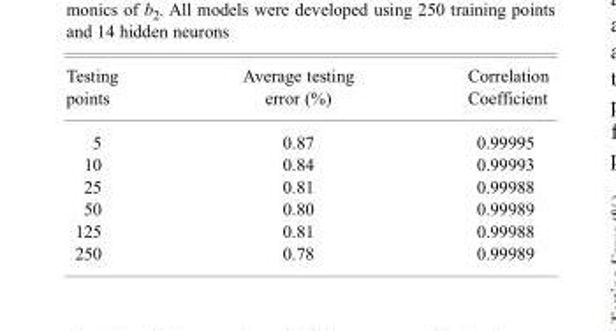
<table><thead><tr><td>Testing points</td><td>Average testing error (%)</td><td>Correlation Coefficient</td></tr></thead><tbody><tr><td>5</td><td>0.87</td><td>0.99995</td></tr><tr><td>10</td><td>0.84</td><td>0.99993</td></tr><tr><td>25</td><td>0.81</td><td>0.99988</td></tr><tr><td>50</td><td>0.80</td><td>0.99989</td></tr><tr><td>125</td><td>0.81</td><td>0.99988</td></tr><tr><td>250</td><td>0.78</td><td>0.99989</td></tr></tbody></table>